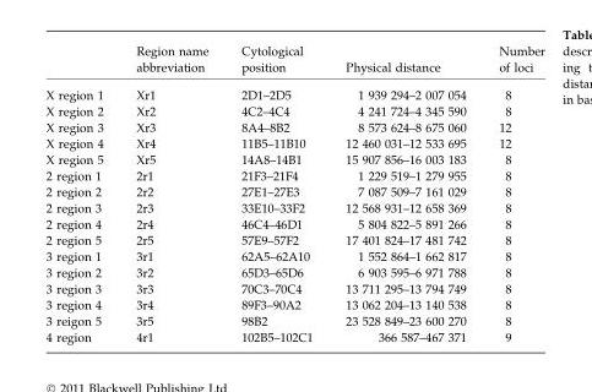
<table><thead><tr><td></td><td>Region name abbreviation</td><td>Cytological position</td><td>Physical distance</td><td>Number of loci</td></tr></thead><tbody><tr><td>X region 1</td><td>Xr1</td><td>2D1–2D5</td><td>1 939 294–2 007 054</td><td>8</td></tr><tr><td>X region 2</td><td>Xr2</td><td>4C2–4C4</td><td>4 241 724–4 345 590</td><td>8</td></tr><tr><td>X region 3</td><td>Xr3</td><td>8A4–8B2</td><td>8 573 624–8 675 060</td><td>12</td></tr><tr><td>X region 4</td><td>Xr4</td><td>11B5–11B10</td><td>12 460 031–12 533 695</td><td>12</td></tr><tr><td>X region 5</td><td>Xr5</td><td>14A8–14B1</td><td>15 907 856–16 003 183</td><td>8</td></tr><tr><td>2 region 1</td><td>2r1</td><td>21F3–21F4</td><td>1 229 519–1 279 955</td><td>8</td></tr><tr><td>2 region 2</td><td>2r2</td><td>27E1–27E3</td><td>7 087 509–7 161 029</td><td>8</td></tr><tr><td>2 region 3</td><td>2r3</td><td>33E10–33F2</td><td>12 568 931–12 658 369</td><td>8</td></tr><tr><td>2 region 4</td><td>2r4</td><td>46C4–46D1</td><td>5 804 822–5 891 266</td><td>8</td></tr><tr><td>2 region 5</td><td>2r5</td><td>57E9–57F2</td><td>17 401 824–17 481 742</td><td>8</td></tr><tr><td>3 region 1</td><td>3r1</td><td>62A5–62A10</td><td>1 552 864–1 662 817</td><td>8</td></tr><tr><td>3 region 2</td><td>3r2</td><td>65D3–65D6</td><td>6 903 595–6 971 788</td><td>8</td></tr><tr><td>3 region 3</td><td>3r3</td><td>70C3–70C4</td><td>13 711 295–13 794 749</td><td>8</td></tr><tr><td>3 region 4</td><td>3r4</td><td>89F3–90A2</td><td>13 062 204–13 140 538</td><td>8</td></tr><tr><td>3 reigon 5</td><td>3r5</td><td>98B2</td><td>23 528 849–23 600 270</td><td>8</td></tr><tr><td>4 region</td><td>4r1</td><td>102B5–102C1</td><td>366 587–467 371</td><td>9</td></tr></tbody></table>